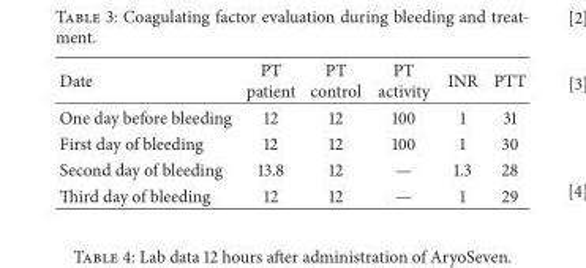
<table><thead><tr><td>Date</td><td>PT patient</td><td>PT control</td><td>PT activity</td><td>INR</td><td>PTT</td></tr></thead><tbody><tr><td>One day before bleeding</td><td>12</td><td>12</td><td>100</td><td>1</td><td>31</td></tr><tr><td>First day of bleeding</td><td>12</td><td>12</td><td>100</td><td>1</td><td>30</td></tr><tr><td>Second day of bleeding</td><td>13.8</td><td>12</td><td>—</td><td>1.3</td><td>28</td></tr><tr><td>Third day of bleeding</td><td>12</td><td>12</td><td>—</td><td>1</td><td>29</td></tr></tbody></table>